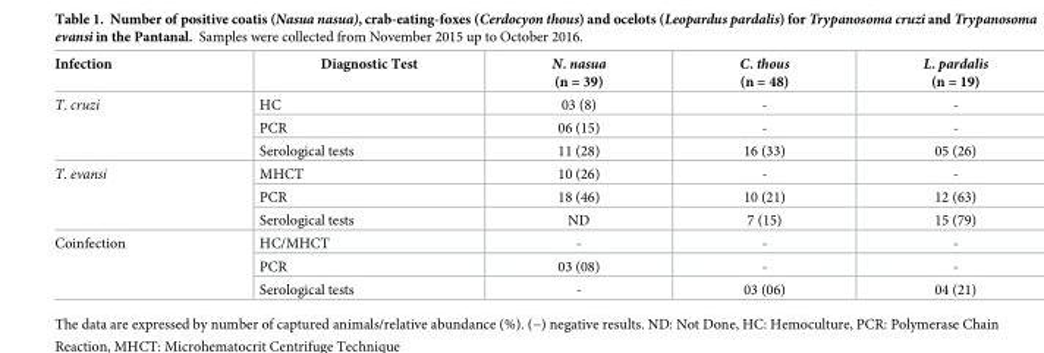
<table><thead><tr><td>Infection</td><td>Diagnostic Test</td><td>N. nasua (n = 39)</td><td>C. thous (n = 48)</td><td>L. pardalis (n = 19)</td></tr></thead><tbody><tr><td rowspan="3">T. cruzi</td><td>HC</td><td>03 (8)</td><td>-</td><td>-</td></tr><tr><td>PCR</td><td>06 (15)</td><td>-</td><td>-</td></tr><tr><td>Serological tests</td><td>11 (28)</td><td>16 (33)</td><td>05 (26)</td></tr><tr><td rowspan="3">T. evansi</td><td>MHCT</td><td>10 (26)</td><td>-</td><td>-</td></tr><tr><td>PCR</td><td>18 (46)</td><td>10 (21)</td><td>12 (63)</td></tr><tr><td>Serological tests</td><td>ND</td><td>7 (15)</td><td>15 (79)</td></tr><tr><td rowspan="3">Coinfection</td><td>HC/MHCT</td><td>-</td><td>-</td><td>-</td></tr><tr><td>PCR</td><td>03 (08)</td><td>-</td><td>-</td></tr><tr><td>Serological tests</td><td>-</td><td>03 (06)</td><td>04 (21)</td></tr></tbody></table>